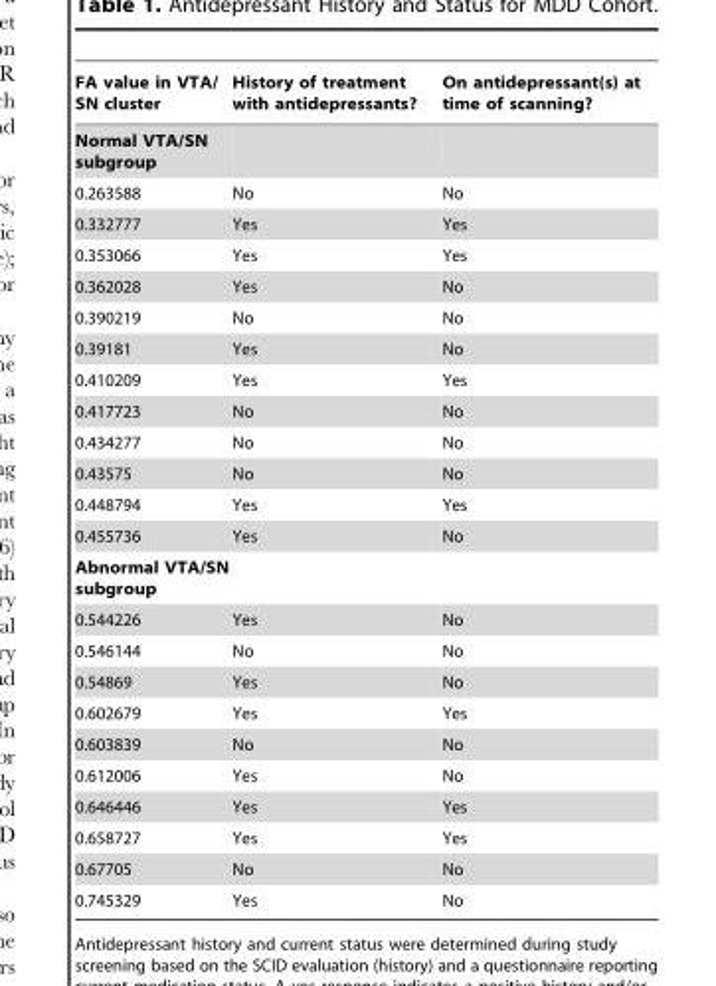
<table><thead><tr><td>FA value in VTA/ SN cluster</td><td>History of treatment with antidepressants?</td><td>On antidepressant(s) at time of scanning?</td></tr></thead><tbody><tr><td colspan="3">Normal VTA/SN subgroup</td></tr><tr><td>0.263588</td><td>No</td><td>No</td></tr><tr><td>0.332777</td><td>Yes</td><td>Yes</td></tr><tr><td>0.353066</td><td>Yes</td><td>Yes</td></tr><tr><td>0.362028</td><td>Yes</td><td>No</td></tr><tr><td>0.390219</td><td>No</td><td>No</td></tr><tr><td>0.39181</td><td>Yes</td><td>No</td></tr><tr><td>0.410209</td><td>Yes</td><td>Yes</td></tr><tr><td>0.417723</td><td>No</td><td>No</td></tr><tr><td>0.434277</td><td>No</td><td>No</td></tr><tr><td>0.43575</td><td>No</td><td>No</td></tr><tr><td>0.448794</td><td>Yes</td><td>Yes</td></tr><tr><td>0.455736</td><td>Yes</td><td>No</td></tr><tr><td colspan="3">Abnormal VTA/SN subgroup</td></tr><tr><td>0.544226</td><td>Yes</td><td>No</td></tr><tr><td>0.546144</td><td>No</td><td>No</td></tr><tr><td>0.54869</td><td>Yes</td><td>No</td></tr><tr><td>0.602679</td><td>Yes</td><td>Yes</td></tr><tr><td>0.603839</td><td>No</td><td>No</td></tr><tr><td>0.612006</td><td>Yes</td><td>No</td></tr><tr><td>0.646446</td><td>Yes</td><td>Yes</td></tr><tr><td>0.658727</td><td>Yes</td><td>Yes</td></tr><tr><td>0.67705</td><td>No</td><td>No</td></tr><tr><td>0.745329</td><td>Yes</td><td>No</td></tr></tbody></table>